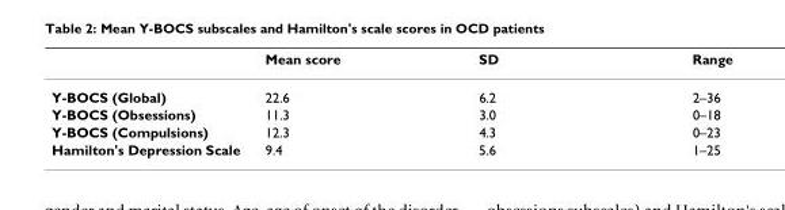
<table><thead><tr><td></td><td>Mean score</td><td>SD</td><td>Range</td></tr></thead><tbody><tr><td>Y-BOCS (Global)</td><td>22.6</td><td>6.2</td><td>2–36</td></tr><tr><td>Y-BOCS (Obsessions)</td><td>11.3</td><td>3.0</td><td>0–18</td></tr><tr><td>Y-BOCS (Compulsions)</td><td>12.3</td><td>4.3</td><td>0–23</td></tr><tr><td>Hamilton&#x27;s Depression Scale</td><td>9.4</td><td>5.6</td><td>1–25</td></tr></tbody></table>